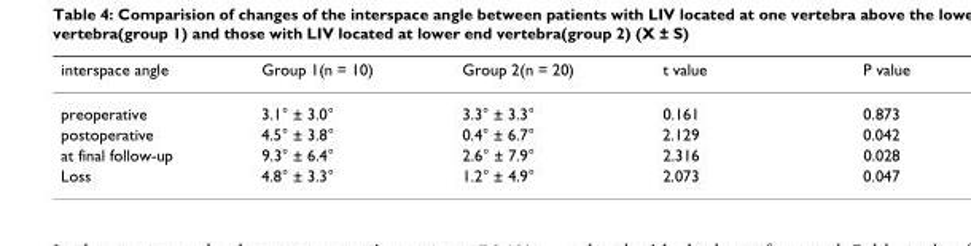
<table><thead><tr><td>interspace angle</td><td>Group 1(n = 10)</td><td>Group 2(n = 20)</td><td>t value</td><td>P value</td></tr></thead><tbody><tr><td>preoperative</td><td>3.1° ± 3.0°</td><td>3.3° ± 3.3°</td><td>0.161</td><td>0.873</td></tr><tr><td>postoperative</td><td>4.5° ± 3.8°</td><td>0.4° ± 6.7°</td><td>2.129</td><td>0.042</td></tr><tr><td>at final follow-up</td><td>9.3° ± 6.4°</td><td>2.6° ± 7.9°</td><td>2.316</td><td>0.028</td></tr><tr><td>Loss</td><td>4.8° ± 3.3°</td><td>1.2° ± 4.9°</td><td>2.073</td><td>0.047</td></tr></tbody></table>